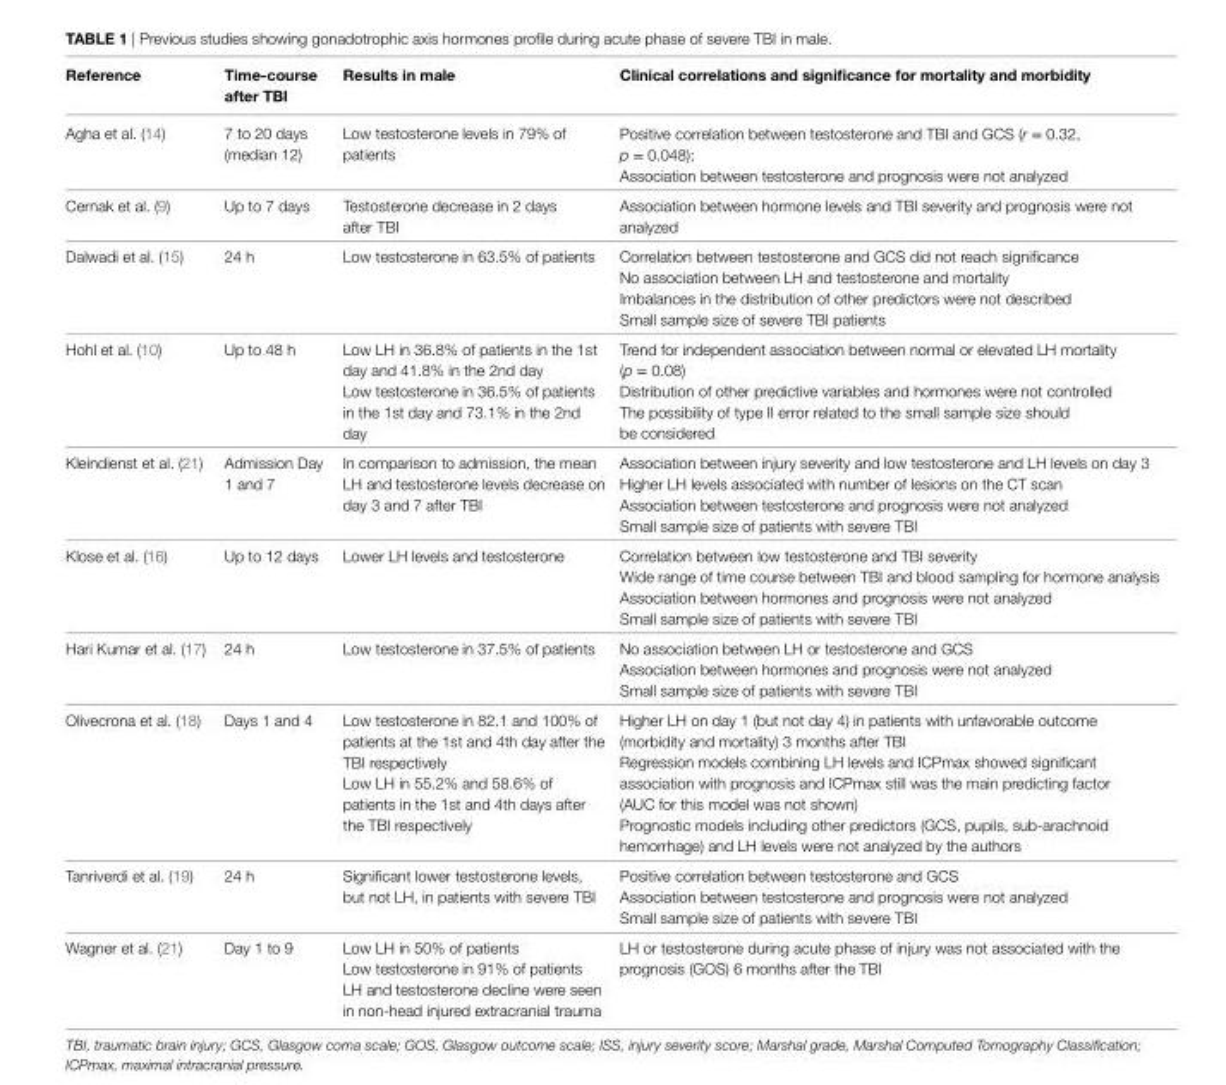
<table><thead><tr><td>reference</td><td>time-course after tBi</td><td>results in male</td><td>clinical correlations and significance for mortality and morbidity</td></tr></thead><tbody><tr><td>Agha et al. (14)</td><td>7 to 20 days (median 12)</td><td>Low testosterone levels in 79% of patients</td><td>Positive correlation between testosterone and TBI and GCS (r = 0.32, p = 0.048); Association between testosterone and prognosis were not analyzed</td></tr><tr><td>Cernak et al. (9)</td><td>Up to 7 days</td><td>Testosterone decrease in 2 days after TBI</td><td>Association between hormone levels and TBI severity and prognosis were not analyzed</td></tr><tr><td>Dalwadi et al. (15)</td><td>24 h</td><td>Low testosterone in 63.5% of patients</td><td>Correlation between testosterone and GCS did not reach significance No association between LH and testosterone and mortality Imbalances in the distribution of other predictors were not described Small sample size of severe TBI patients</td></tr><tr><td>Hohl et al. (10)</td><td>Up to 48 h</td><td>Low LH in 36.8% of patients in the 1st day and 41.8% in the 2nd day Low testosterone in 36.5% of patients in the 1st day and 73.1% in the 2nd day</td><td>Trend for independent association between normal or elevated LH mortality (p = 0.08) Distribution of other predictive variables and hormones were not controlled The possibility of type II error related to the small sample size should be considered</td></tr><tr><td>Kleindienst et al. (21)</td><td>Admission Day 1 and 7</td><td>In comparison to admission, the mean LH and testosterone levels decrease on day 3 and 7 after TBI</td><td>Association between injury severity and low testosterone and LH levels on day 3 Higher LH levels associated with number of lesions on the CT scan Association between testosterone and prognosis were not analyzed Small sample size of patients with severe TBI</td></tr><tr><td>Klose et al. (16)</td><td>Up to 12 days</td><td>Lower LH levels and testosterone</td><td>Correlation between low testosterone and TBI severity Wide range of time course between TBI and blood sampling for hormone analysis Association between hormones and prognosis were not analyzed Small sample size of patients with severe TBI</td></tr><tr><td>Hari Kumar et al. (17)</td><td>24 h</td><td>Low testosterone in 37.5% of patients</td><td>No association between LH or testosterone and GCS Association between hormones and prognosis were not analyzed Small sample size of patients with severe TBI</td></tr><tr><td>Olivecrona et al. (18)</td><td>Days 1 and 4</td><td>Low testosterone in 82.1 and 100% of patients at the 1st and 4th day after the TBI respectively Low LH in 55.2% and 58.6% of patients in the 1st and 4th days after the TBI respectively</td><td>Higher LH on day 1 (but not day 4) in patients with unfavorable outcome (morbidity and mortality) 3 months after TBI Regression models combining LH levels and ICPmax showed significant association with prognosis and ICPmax still was the main predicting factor (AUC for this model was not shown) Prognostic models including other predictors (GCS, pupils, sub-arachnoid hemorrhage) and LH levels were not analyzed by the authors</td></tr><tr><td>Tanriverdi et al. (19)</td><td>24 h</td><td>Significant lower testosterone levels, but not LH, in patients with severe TBI</td><td>Positive correlation between testosterone and GCS Association between testosterone and prognosis were not analyzed Small sample size of patients with severe TBI</td></tr><tr><td>Wagner et al. (21)</td><td>Day 1 to 9</td><td>Low LH in 50% of patients Low testosterone in 91% of patients LH and testosterone decline were seen in non-head injured extracranial trauma</td><td>LH or testosterone during acute phase of injury was not associated with the prognosis (GOS) 6 months after the TBI</td></tr></tbody></table>